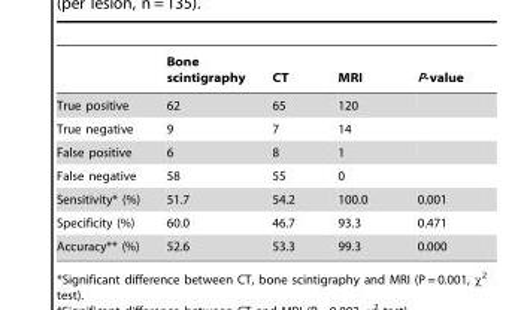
<table><thead><tr><td></td><td>Bone scintigraphy</td><td>CT</td><td>MRI</td><td>P-value</td></tr></thead><tbody><tr><td>True positive</td><td>62</td><td>65</td><td>120</td><td></td></tr><tr><td>True negative</td><td>9</td><td>7</td><td>14</td><td></td></tr><tr><td>False positive</td><td>6</td><td>8</td><td>1</td><td></td></tr><tr><td>False negative</td><td>58</td><td>55</td><td>0</td><td></td></tr><tr><td>Sensitivity* (%)</td><td>51.7</td><td>54.2</td><td>100.0</td><td>0.001</td></tr><tr><td>Specificity (%)</td><td>60.0</td><td>46.7</td><td>93.3</td><td>0.471</td></tr><tr><td>Accuracy** (%)</td><td>52.6</td><td>53.3</td><td>99.3</td><td>0.000</td></tr></tbody></table>